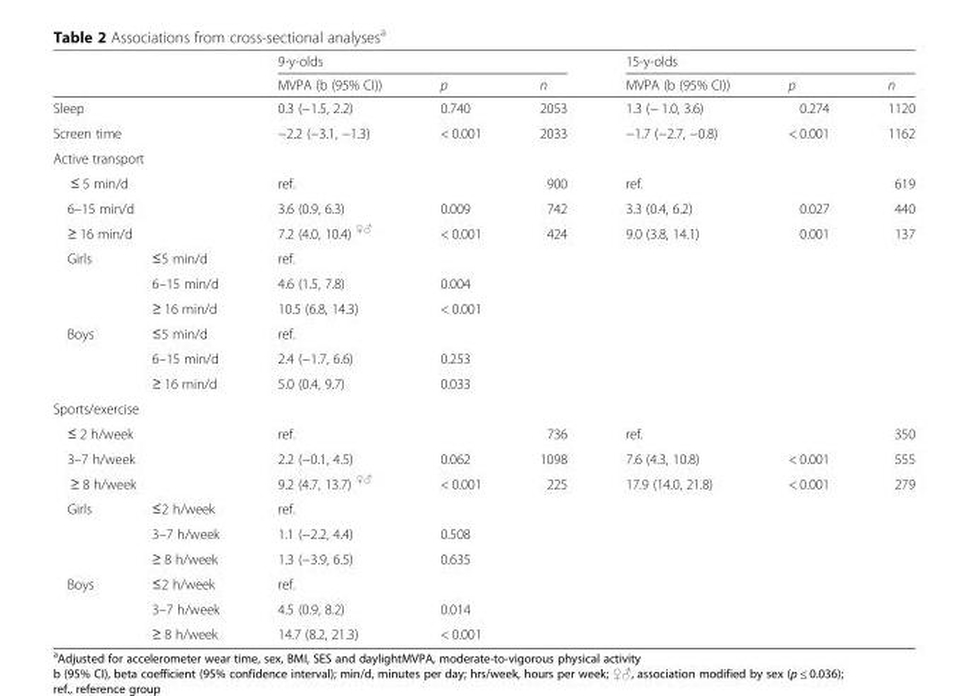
<table><thead><tr><td rowspan="2"></td><td rowspan="2"></td><td colspan="3">9-y-olds</td><td colspan="3">15-y-olds</td></tr><tr><td>MVPA (b (95% CI))</td><td>p</td><td>n</td><td>MVPA (b (95% CI))</td><td>p</td><td>n</td></tr></thead><tbody><tr><td colspan="2">Sleep</td><td>0.3 (−1.5, 2.2)</td><td>0.740</td><td>2053</td><td>1.3 (− 1.0, 3.6)</td><td>0.274</td><td>1120</td></tr><tr><td colspan="2">Screen time</td><td>−2.2 (−3.1, −1.3)</td><td>&lt; 0.001</td><td>2033</td><td>−1.7 (−2.7, −0.8)</td><td>&lt; 0.001</td><td>1162</td></tr><tr><td colspan="8">Active transport</td></tr><tr><td colspan="2">≤ 5 min/d</td><td>ref.</td><td></td><td>900</td><td>ref.</td><td></td><td>619</td></tr><tr><td colspan="2">6–15 min/d</td><td>3.6 (0.9, 6.3)</td><td>0.009</td><td>742</td><td>3.3 (0.4, 6.2)</td><td>0.027</td><td>440</td></tr><tr><td colspan="2">≥ 16 min/d</td><td>7.2 (4.0, 10.4) <sup>♀♂</sup></td><td>&lt; 0.001</td><td>424</td><td>9.0 (3.8, 14.1)</td><td>0.001</td><td>137</td></tr><tr><td rowspan="3">Girls</td><td>≤5 min/d</td><td>ref.</td><td></td><td></td><td></td><td></td><td></td></tr><tr><td>6–15 min/d</td><td>4.6 (1.5, 7.8)</td><td>0.004</td><td></td><td></td><td></td><td></td></tr><tr><td>≥ 16 min/d</td><td>10.5 (6.8, 14.3)</td><td>&lt; 0.001</td><td></td><td></td><td></td><td></td></tr><tr><td rowspan="3">Boys</td><td>≤5 min/d</td><td>ref.</td><td></td><td></td><td></td><td></td><td></td></tr><tr><td>6–15 min/d</td><td>2.4 (−1.7, 6.6)</td><td>0.253</td><td></td><td></td><td></td><td></td></tr><tr><td>≥ 16 min/d</td><td>5.0 (0.4, 9.7)</td><td>0.033</td><td></td><td></td><td></td><td></td></tr><tr><td colspan="8">Sports/exercise</td></tr><tr><td colspan="2">≤ 2 h/week</td><td>ref.</td><td></td><td>736</td><td>ref.</td><td></td><td>350</td></tr><tr><td colspan="2">3–7 h/week</td><td>2.2 (−0.1, 4.5)</td><td>0.062</td><td>1098</td><td>7.6 (4.3, 10.8)</td><td>&lt; 0.001</td><td>555</td></tr><tr><td colspan="2">≥ 8 h/week</td><td>9.2 (4.7, 13.7) <sup>♀♂</sup></td><td>&lt; 0.001</td><td>225</td><td>17.9 (14.0, 21.8)</td><td>&lt; 0.001</td><td>279</td></tr><tr><td rowspan="3">Girls</td><td>≤2 h/week</td><td>ref.</td><td></td><td></td><td></td><td></td><td></td></tr><tr><td>3–7 h/week</td><td>1.1 (−2.2, 4.4)</td><td>0.508</td><td></td><td></td><td></td><td></td></tr><tr><td>≥ 8 h/week</td><td>1.3 (−3.9, 6.5)</td><td>0.635</td><td></td><td></td><td></td><td></td></tr><tr><td rowspan="3">Boys</td><td>≤2 h/week</td><td>ref.</td><td></td><td></td><td></td><td></td><td></td></tr><tr><td>3–7 h/week</td><td>4.5 (0.9, 8.2)</td><td>0.014</td><td></td><td></td><td></td><td></td></tr><tr><td>≥ 8 h/week</td><td>14.7 (8.2, 21.3)</td><td>&lt; 0.001</td><td></td><td></td><td></td><td></td></tr></tbody></table>